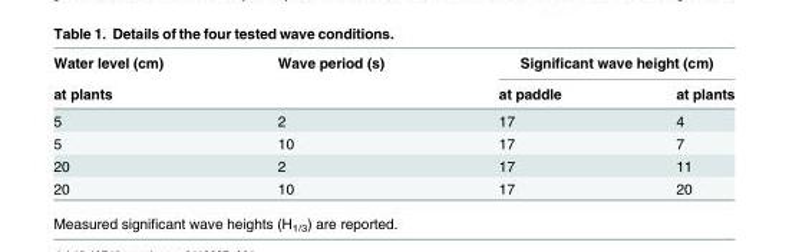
<table><thead><tr><td rowspan="2">Water level (cm) at plants</td><td rowspan="2">Wave period (s)</td><td colspan="2">Significant wave height (cm)</td></tr><tr><td>at paddle</td><td>at plants</td></tr></thead><tbody><tr><td>5</td><td>2</td><td>17</td><td>4</td></tr><tr><td>5</td><td>10</td><td>17</td><td>7</td></tr><tr><td>20</td><td>2</td><td>17</td><td>11</td></tr><tr><td>20</td><td>10</td><td>17</td><td>20</td></tr></tbody></table>